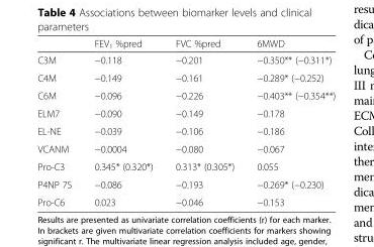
<table><thead><tr><td></td><td>FEV<sub>1</sub> %pred</td><td>FVC %pred</td><td>6MWD</td></tr></thead><tbody><tr><td>C3M</td><td>−0.118</td><td>−0.201</td><td>−0.350** (−0.311*)</td></tr><tr><td>C4M</td><td>−0.149</td><td>−0.161</td><td>−0.289* (−0.252)</td></tr><tr><td>C6M</td><td>−0.096</td><td>−0.226</td><td>−0.403** (−0.354**)</td></tr><tr><td>ELM7</td><td>−0.090</td><td>−0.149</td><td>−0.178</td></tr><tr><td>EL-NE</td><td>−0.039</td><td>−0.106</td><td>−0.186</td></tr><tr><td>VCANM</td><td>−0.0004</td><td>−0.080</td><td>−0.067</td></tr><tr><td>Pro-C3</td><td>0.345* (0.320*)</td><td>0.313* (0.305*)</td><td>0.055</td></tr><tr><td>P4NP 7S</td><td>−0.086</td><td>−0.193</td><td>−0.269* (−0.230)</td></tr><tr><td>Pro-C6</td><td>0.023</td><td>−0.046</td><td>−0.153</td></tr></tbody></table>